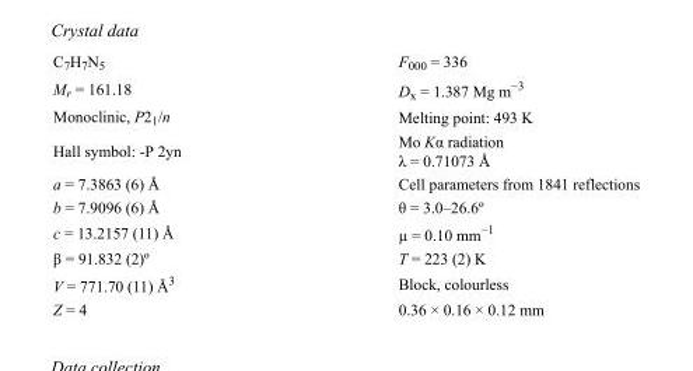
<table><tbody><tr><td>C<sub>7</sub>H<sub>7</sub>N<sub>5</sub></td><td>F000 = 336</td></tr><tr><td>M<sub>r</sub> = 161.18</td><td>D<sub>x</sub> = 1.387 Mg m<sup>−3</sup></td></tr><tr><td>Monoclinic, P2<sub>1</sub>/n</td><td>Melting point: 493 K</td></tr><tr><td>Hall symbol: -P 2yn</td><td>Mo Kα radiation λ = 0.71073 Å</td></tr><tr><td>a = 7.3863 (6) Å</td><td>Cell parameters from 1841 reflections</td></tr><tr><td>b = 7.9096 (6) Å</td><td>θ = 3.0–26.6º</td></tr><tr><td>c = 13.2157 (11) Å</td><td>µ = 0.10 mm<sup>−1</sup></td></tr><tr><td>β = 91.832 (2)º</td><td>T = 223 (2) K</td></tr><tr><td>V = 771.70 (11) Å<sup>3</sup></td><td>Block, colourless</td></tr><tr><td>Z = 4</td><td>0.36 × 0.16 × 0.12 mm</td></tr></tbody></table>